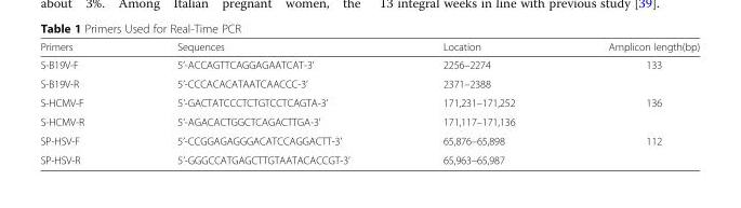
<table><thead><tr><td>Primers</td><td>Sequences</td><td>Location</td><td>Amplicon length(bp)</td></tr></thead><tbody><tr><td>S-B19V-F</td><td>5’-ACCAGTTCAGGAGAATCAT-3’</td><td>2256–2274</td><td rowspan="2">133</td></tr><tr><td>S-B19V-R</td><td>5’-CCCACACATAATCAACCC-3’</td><td>2371–2388</td></tr><tr><td>S-HCMV-F</td><td>5’-GACTATCCCTCTGTCCTCAGTA-3’</td><td>171,231–171,252</td><td rowspan="2">136</td></tr><tr><td>S-HCMV-R</td><td>5’-AGACACTGGCTCAGACTTGA-3’</td><td>171,117–171,136</td></tr><tr><td>SP-HSV-F</td><td>5’-CCGGAGAGGGACATCCAGGACTT-3’</td><td>65,876–65,898</td><td rowspan="2">112</td></tr><tr><td>SP-HSV-R</td><td>5’-GGGCCATGAGCTTGTAATACACCGT-3’</td><td>65,963–65,987</td></tr></tbody></table>